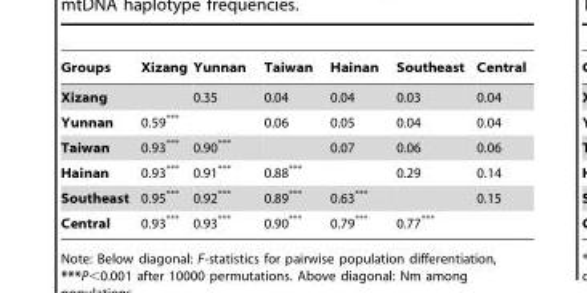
<table><thead><tr><td>Groups</td><td>Xizang</td><td>Yunnan</td><td>Taiwan</td><td>Hainan</td><td>Southeast</td><td>Central</td></tr></thead><tbody><tr><td>Xizang</td><td></td><td>0.35</td><td>0.04</td><td>0.04</td><td>0.03</td><td>0.04</td></tr><tr><td>Yunnan</td><td>0.59***</td><td></td><td>0.06</td><td>0.05</td><td>0.04</td><td>0.04</td></tr><tr><td>Taiwan</td><td>0.93***</td><td>0.90***</td><td></td><td>0.07</td><td>0.06</td><td>0.06</td></tr><tr><td>Hainan</td><td>0.93***</td><td>0.91***</td><td>0.88***</td><td></td><td>0.29</td><td>0.14</td></tr><tr><td>Southeast</td><td>0.95***</td><td>0.92***</td><td>0.89***</td><td>0.63***</td><td></td><td>0.15</td></tr><tr><td>Central</td><td>0.93***</td><td>0.93***</td><td>0.90***</td><td>0.79***</td><td>0.77***</td><td></td></tr></tbody></table>